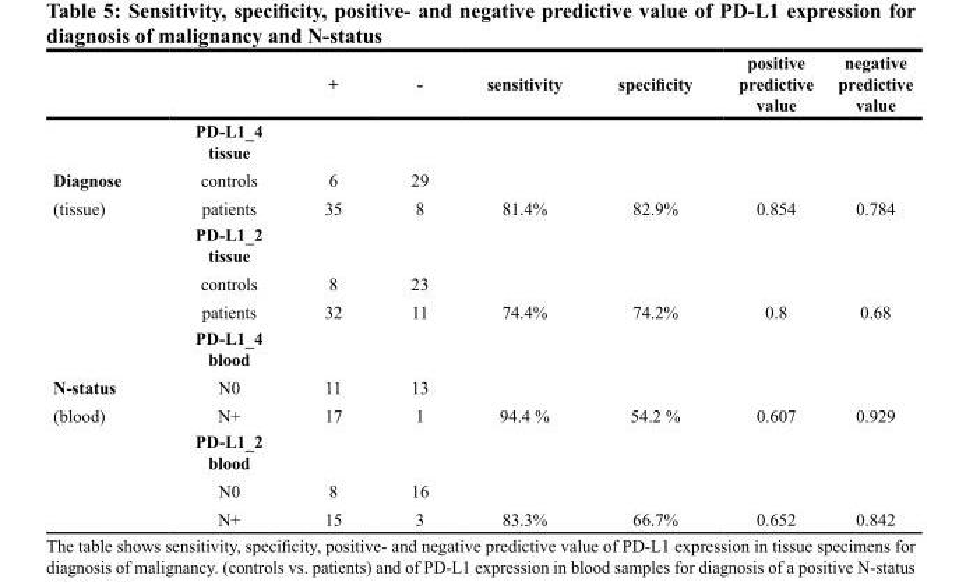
<table><thead><tr><td></td><td></td><td>+</td><td>-</td><td>sensitivity</td><td>specificity</td><td>positive predictive value</td><td>negative predictive value</td></tr></thead><tbody><tr><td></td><td>PD-L1_4 tissue</td><td></td><td></td><td></td><td></td><td></td><td></td></tr><tr><td>Diagnose</td><td>controls</td><td>6</td><td>29</td><td></td><td></td><td></td><td></td></tr><tr><td rowspan="5">(tissue)</td><td>patients</td><td>35</td><td>8</td><td>81.4%</td><td>82.9%</td><td>0.854</td><td>0.784</td></tr><tr><td>PD-L1_2 tissue</td><td></td><td></td><td></td><td></td><td></td><td></td></tr><tr><td>controls</td><td>8</td><td>23</td><td></td><td></td><td></td><td></td></tr><tr><td>patients</td><td>32</td><td>11</td><td>74.4%</td><td>74.2%</td><td>0.8</td><td>0.68</td></tr><tr><td>PD-L1_4 blood</td><td></td><td></td><td></td><td></td><td></td><td></td></tr><tr><td>N-status</td><td>N0</td><td>11</td><td>13</td><td></td><td></td><td></td><td></td></tr><tr><td rowspan="4">(blood)</td><td>N+</td><td>17</td><td>1</td><td>94.4 %</td><td>54.2 %</td><td>0.607</td><td>0.929</td></tr><tr><td>PD-L1_2 blood</td><td></td><td></td><td></td><td></td><td></td><td></td></tr><tr><td>N0</td><td>8</td><td>16</td><td></td><td></td><td></td><td></td></tr><tr><td>N+</td><td>15</td><td>3</td><td>83.3%</td><td>66.7%</td><td>0.652</td><td>0.842</td></tr></tbody></table>